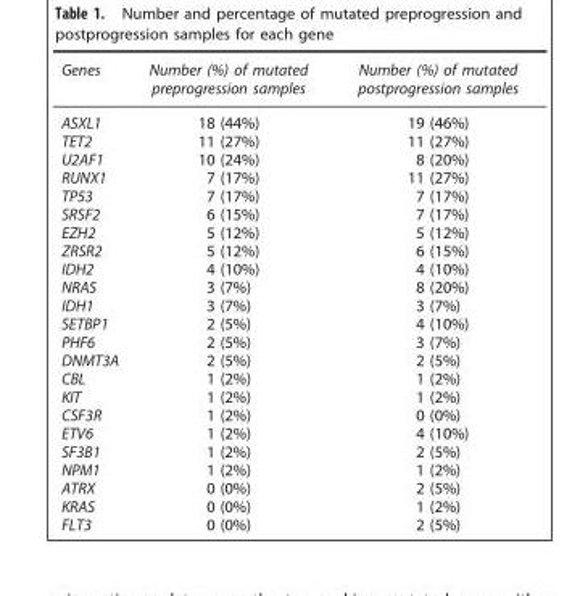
<table><thead><tr><td>Genes</td><td>Number (%) of mutated preprogression samples</td><td>Number (%) of mutated postprogression samples</td></tr></thead><tbody><tr><td>ASXL1</td><td>18 (44%)</td><td>19 (46%)</td></tr><tr><td>TET2</td><td>11 (27%)</td><td>11 (27%)</td></tr><tr><td>U2AF1</td><td>10 (24%)</td><td>8 (20%)</td></tr><tr><td>RUNX1</td><td>7 (17%)</td><td>11 (27%)</td></tr><tr><td>TP53</td><td>7 (17%)</td><td>7 (17%)</td></tr><tr><td>SRSF2</td><td>6 (15%)</td><td>7 (17%)</td></tr><tr><td>EZH2</td><td>5 (12%)</td><td>5 (12%)</td></tr><tr><td>ZRSR2</td><td>5 (12%)</td><td>6 (15%)</td></tr><tr><td>IDH2</td><td>4 (10%)</td><td>4 (10%)</td></tr><tr><td>NRAS</td><td>3 (7%)</td><td>8 (20%)</td></tr><tr><td>IDH1</td><td>3 (7%)</td><td>3 (7%)</td></tr><tr><td>SETBP1</td><td>2 (5%)</td><td>4 (10%)</td></tr><tr><td>PHF6</td><td>2 (5%)</td><td>3 (7%)</td></tr><tr><td>DNMT3A</td><td>2 (5%)</td><td>2 (5%)</td></tr><tr><td>CBL</td><td>1 (2%)</td><td>1 (2%)</td></tr><tr><td>KIT</td><td>1 (2%)</td><td>1 (2%)</td></tr><tr><td>CSF3R</td><td>1 (2%)</td><td>0 (0%)</td></tr><tr><td>ETV6</td><td>1 (2%)</td><td>4 (10%)</td></tr><tr><td>SF3B1</td><td>1 (2%)</td><td>2 (5%)</td></tr><tr><td>NPM1</td><td>1 (2%)</td><td>1 (2%)</td></tr><tr><td>ATRX</td><td>0 (0%)</td><td>2 (5%)</td></tr><tr><td>KRAS</td><td>0 (0%)</td><td>1 (2%)</td></tr><tr><td>FLT3</td><td>0 (0%)</td><td>2 (5%)</td></tr></tbody></table>